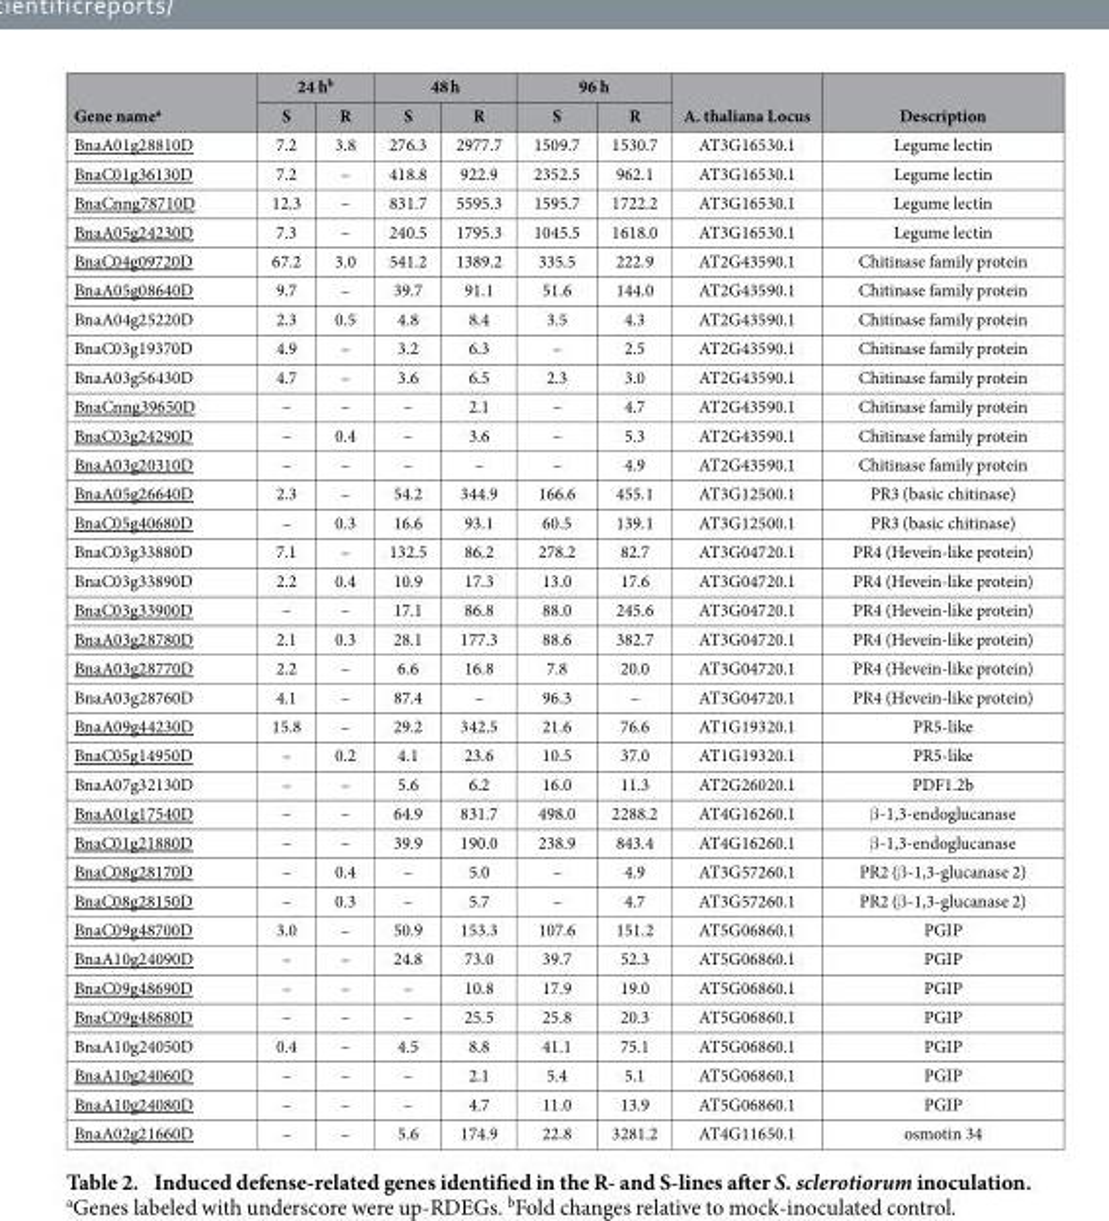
<table><thead><tr><td rowspan="2">Gene name<sup>a</sup></td><td colspan="2">24 h<sup>b</sup></td><td colspan="2">48 h</td><td colspan="2">96 h</td><td rowspan="2">A. thaliana Locus</td><td rowspan="2">Description</td></tr><tr><td>S</td><td>R</td><td>S</td><td>R</td><td>S</td><td>R</td></tr></thead><tbody><tr><td>BnaA01g28810D</td><td>7.2</td><td>3.8</td><td>276.3</td><td>2977.7</td><td>1509.7</td><td>1530.7</td><td>AT3G16530.1</td><td>Legume lectin</td></tr><tr><td>BnaC01g36130D</td><td>7.2</td><td>–</td><td>418.8</td><td>922.9</td><td>2352.5</td><td>962.1</td><td>AT3G16530.1</td><td>Legume lectin</td></tr><tr><td>BnaCnng78710D</td><td>12.3</td><td>–</td><td>831.7</td><td>5595.3</td><td>1595.7</td><td>1722.2</td><td>AT3G16530.1</td><td>Legume lectin</td></tr><tr><td>BnaA05g24230D</td><td>7.3</td><td>–</td><td>240.5</td><td>1795.3</td><td>1045.5</td><td>1618.0</td><td>AT3G16530.1</td><td>Legume lectin</td></tr><tr><td>BnaC04g09720D</td><td>67.2</td><td>3.0</td><td>541.2</td><td>1389.2</td><td>335.5</td><td>222.9</td><td>AT2G43590.1</td><td>Chitinase family protein</td></tr><tr><td>BnaA05g08640D</td><td>9.7</td><td>–</td><td>39.7</td><td>91.1</td><td>51.6</td><td>144.0</td><td>AT2G43590.1</td><td>Chitinase family protein</td></tr><tr><td>BnaA04g25220D</td><td>2.3</td><td>0.5</td><td>4.8</td><td>8.4</td><td>3.5</td><td>4.3</td><td>AT2G43590.1</td><td>Chitinase family protein</td></tr><tr><td>BnaC03g19370D</td><td>4.9</td><td>–</td><td>3.2</td><td>6.3</td><td>–</td><td>2.5</td><td>AT2G43590.1</td><td>Chitinase family protein</td></tr><tr><td>BnaA03g56430D</td><td>4.7</td><td>–</td><td>3.6</td><td>6.5</td><td>2.3</td><td>3.0</td><td>AT2G43590.1</td><td>Chitinase family protein</td></tr><tr><td>BnaCnng39650D</td><td>–</td><td>–</td><td>–</td><td>2.1</td><td>–</td><td>4.7</td><td>AT2G43590.1</td><td>Chitinase family protein</td></tr><tr><td>BnaC03g24290D</td><td>–</td><td>0.4</td><td>–</td><td>3.6</td><td>–</td><td>5.3</td><td>AT2G43590.1</td><td>Chitinase family protein</td></tr><tr><td>BnaA03g20310D</td><td>–</td><td>–</td><td>–</td><td>–</td><td>–</td><td>4.9</td><td>AT2G43590.1</td><td>Chitinase family protein</td></tr><tr><td>BnaA05g26640D</td><td>2.3</td><td>–</td><td>54.2</td><td>344.9</td><td>166.6</td><td>455.1</td><td>AT3G12500.1</td><td>PR3 (basic chitinase)</td></tr><tr><td>BnaC05g40680D</td><td>–</td><td>0.3</td><td>16.6</td><td>93.1</td><td>60.5</td><td>139.1</td><td>AT3G12500.1</td><td>PR3 (basic chitinase)</td></tr><tr><td>BnaC03g33880D</td><td>7.1</td><td>–</td><td>132.5</td><td>86.2</td><td>278.2</td><td>82.7</td><td>AT3G04720.1</td><td>PR4 (Hevein-like protein)</td></tr><tr><td>BnaC03g33890D</td><td>2.2</td><td>0.4</td><td>10.9</td><td>17.3</td><td>13.0</td><td>17.6</td><td>AT3G04720.1</td><td>PR4 (Hevein-like protein)</td></tr><tr><td>BnaC03g33900D</td><td>–</td><td>–</td><td>17.1</td><td>86.8</td><td>88.0</td><td>245.6</td><td>AT3G04720.1</td><td>PR4 (Hevein-like protein)</td></tr><tr><td>BnaA03g28780D</td><td>2.1</td><td>0.3</td><td>28.1</td><td>177.3</td><td>88.6</td><td>382.7</td><td>AT3G04720.1</td><td>PR4 (Hevein-like protein)</td></tr><tr><td>BnaA03g28770D</td><td>2.2</td><td>–</td><td>6.6</td><td>16.8</td><td>7.8</td><td>20.0</td><td>AT3G04720.1</td><td>PR4 (Hevein-like protein)</td></tr><tr><td>BnaA03g28760D</td><td>4.1</td><td>–</td><td>87.4</td><td>–</td><td>96.3</td><td>–</td><td>AT3G04720.1</td><td>PR4 (Hevein-like protein)</td></tr><tr><td>BnaA09g44230D</td><td>15.8</td><td>–</td><td>29.2</td><td>342.5</td><td>21.6</td><td>76.6</td><td>AT1G19320.1</td><td>PR5-like</td></tr><tr><td>BnaC05g14950D</td><td>–</td><td>0.2</td><td>4.1</td><td>23.6</td><td>10.5</td><td>37.0</td><td>AT1G19320.1</td><td>PR5-like</td></tr><tr><td>BnaA07g32130D</td><td>–</td><td>–</td><td>5.6</td><td>6.2</td><td>16.0</td><td>11.3</td><td>AT2G26020.1</td><td>PDF1.2b</td></tr><tr><td>BnaA01g17540D</td><td>–</td><td>–</td><td>64.9</td><td>831.7</td><td>498.0</td><td>2288.2</td><td>AT4G16260.1</td><td>β -1,3-endoglucanase</td></tr><tr><td>BnaC01g21880D</td><td>–</td><td>–</td><td>39.9</td><td>190.0</td><td>238.9</td><td>843.4</td><td>AT4G16260.1</td><td>β -1,3-endoglucanase</td></tr><tr><td>BnaC08g28170D</td><td>–</td><td>0.4</td><td>–</td><td>5.0</td><td>–</td><td>4.9</td><td>AT3G57260.1</td><td>PR2 (β -1,3-glucanase 2)</td></tr><tr><td>BnaC08g28150D</td><td>–</td><td>0.3</td><td>–</td><td>5.7</td><td>–</td><td>4.7</td><td>AT3G57260.1</td><td>PR2 (β -1,3-glucanase 2)</td></tr><tr><td>BnaC09g48700D</td><td>3.0</td><td>–</td><td>50.9</td><td>153.3</td><td>107.6</td><td>151.2</td><td>AT5G06860.1</td><td>PGIP</td></tr><tr><td>BnaA10g24090D</td><td>–</td><td>–</td><td>24.8</td><td>73.0</td><td>39.7</td><td>52.3</td><td>AT5G06860.1</td><td>PGIP</td></tr><tr><td>BnaC09g48690D</td><td>–</td><td>–</td><td>–</td><td>10.8</td><td>17.9</td><td>19.0</td><td>AT5G06860.1</td><td>PGIP</td></tr><tr><td>BnaC09g48680D</td><td>–</td><td>–</td><td>–</td><td>25.5</td><td>25.8</td><td>20.3</td><td>AT5G06860.1</td><td>PGIP</td></tr><tr><td>BnaA10g24050D</td><td>0.4</td><td>–</td><td>4.5</td><td>8.8</td><td>41.1</td><td>75.1</td><td>AT5G06860.1</td><td>PGIP</td></tr><tr><td>BnaA10g24060D</td><td>–</td><td>–</td><td>–</td><td>2.1</td><td>5.4</td><td>5.1</td><td>AT5G06860.1</td><td>PGIP</td></tr><tr><td>BnaA10g24080D</td><td>–</td><td>–</td><td>–</td><td>4.7</td><td>11.0</td><td>13.9</td><td>AT5G06860.1</td><td>PGIP</td></tr><tr><td>BnaA02g21660D</td><td>–</td><td>–</td><td>5.6</td><td>174.9</td><td>22.8</td><td>3281.2</td><td>AT4G11650.1</td><td>osmotin 34</td></tr></tbody></table>